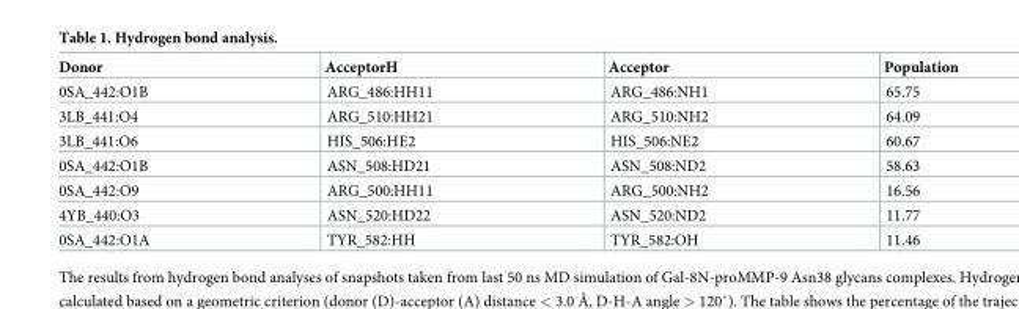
<table><thead><tr><td>Donor</td><td>AcceptorH</td><td>Acceptor</td><td>Population</td></tr></thead><tbody><tr><td>0SA_442:O1B</td><td>ARG_486:HH11</td><td>ARG_486:NH1</td><td>65.75</td></tr><tr><td>3LB_441:O4</td><td>ARG_510:HH21</td><td>ARG_510:NH2</td><td>64.09</td></tr><tr><td>3LB_441:O6</td><td>HIS_506:HE2</td><td>HIS_506:NE2</td><td>60.67</td></tr><tr><td>0SA_442:O1B</td><td>ASN_508:HD21</td><td>ASN_508:ND2</td><td>58.63</td></tr><tr><td>0SA_442:O9</td><td>ARG_500:HH11</td><td>ARG_500:NH2</td><td>16.56</td></tr><tr><td>4YB_440:O3</td><td>ASN_520:HD22</td><td>ASN_520:ND2</td><td>11.77</td></tr><tr><td>0SA_442:O1A</td><td>TYR_582:HH</td><td>TYR_582:OH</td><td>11.46</td></tr></tbody></table>